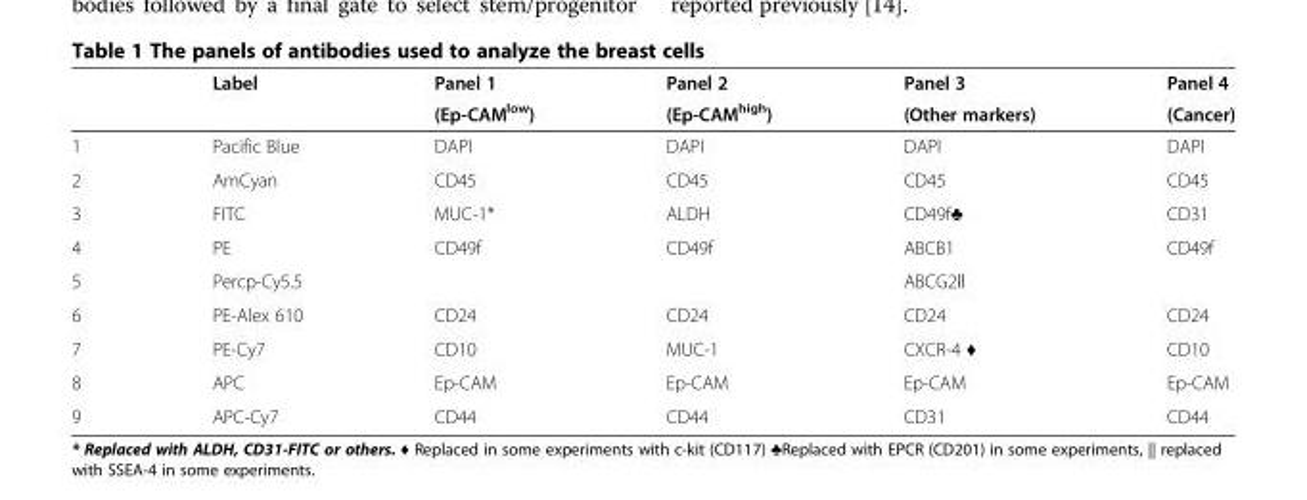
<table><thead><tr><td rowspan="2"></td><td rowspan="2">Label</td><td rowspan="2">Panel 1 (Ep-CAM<sup>low</sup>)</td><td rowspan="2">Panel 2 (Ep-CAM<sup>high</sup>)</td><td rowspan="2">Panel 3 (Other markers)</td><td rowspan="2">Panel 4 (Cancer)</td></tr><tr></tr></thead><tbody><tr><td>1</td><td>Pacific Blue</td><td>DAPI</td><td>DAPI</td><td>DAPI</td><td>DAPI</td></tr><tr><td>2</td><td>AmCyan</td><td>CD45</td><td>CD45</td><td>CD45</td><td>CD45</td></tr><tr><td>3</td><td>FITC</td><td>MUC-1*</td><td>ALDH</td><td>CD49f♣</td><td>CD31</td></tr><tr><td>4</td><td>PE</td><td>CD49f</td><td>CD49f</td><td>ABCB1</td><td>CD49f</td></tr><tr><td>5</td><td>Percp-Cy5.5</td><td></td><td></td><td>ABCG2ǁ</td><td></td></tr><tr><td>6</td><td>PE-Alex 610</td><td>CD24</td><td>CD24</td><td>CD24</td><td>CD24</td></tr><tr><td>7</td><td>PE-Cy7</td><td>CD10</td><td>MUC-1</td><td>CXCR-4 ♦</td><td>CD10</td></tr><tr><td>8</td><td>APC</td><td>Ep-CAM</td><td>Ep-CAM</td><td>Ep-CAM</td><td>Ep-CAM</td></tr><tr><td>9</td><td>APC-Cy7</td><td>CD44</td><td>CD44</td><td>CD31</td><td>CD44</td></tr></tbody></table>